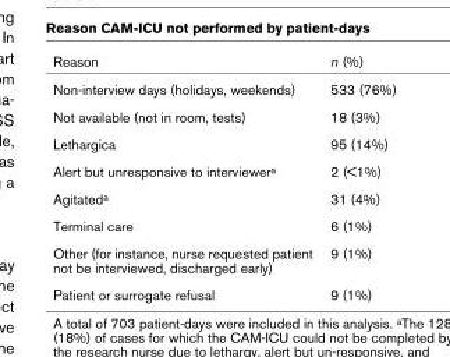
<table><thead><tr><td>Reason</td><td>n (%)</td></tr></thead><tbody><tr><td>Non-interview days (holidays, weekends)</td><td>533 (76%)</td></tr><tr><td>Not available (not in room, tests)</td><td>18 (3%)</td></tr><tr><td>Lethargica</td><td>95 (14%)</td></tr><tr><td>Alert but unresponsive to interviewera</td><td>2 (&lt;1%)</td></tr><tr><td>Agitateda</td><td>31 (4%)</td></tr><tr><td>Terminal care</td><td>6 (1%)</td></tr><tr><td>Other (for instance, nurse requested patient not be interviewed, discharged early)</td><td>9 (1%)</td></tr><tr><td>Patient or surrogate refusal</td><td>9 (1%)</td></tr></tbody></table>